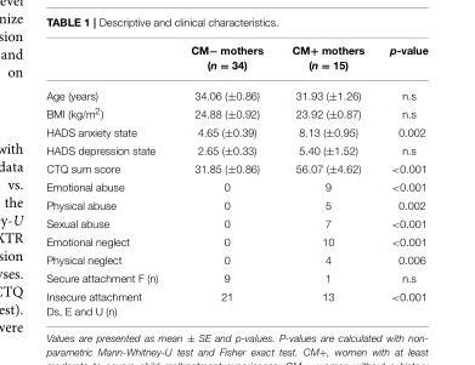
<table><thead><tr><td></td><td>CM− mothers (n = 34)</td><td>CM+ mothers (n = 15)</td><td>p-value</td></tr></thead><tbody><tr><td>Age (years)</td><td>34.06 (±0.86)</td><td>31.93 (±1.26)</td><td>n.s</td></tr><tr><td>BMI (kg/m<sup>2</sup>)</td><td>24.88 (±0.92)</td><td>23.92 (±0.87)</td><td>n.s</td></tr><tr><td>HADS anxiety state</td><td>4.65 (±0.39)</td><td>8.13 (±0.95)</td><td>0.002</td></tr><tr><td>HADS depression state</td><td>2.65 (±0.33)</td><td>5.40 (±1.52)</td><td>n.s</td></tr><tr><td>CTQ sum score</td><td>31.85 (±0.86)</td><td>56.07 (±4.62)</td><td>&lt;0.001</td></tr><tr><td>Emotional abuse</td><td>0</td><td>9</td><td>&lt;0.001</td></tr><tr><td>Physical abuse</td><td>0</td><td>5</td><td>0.002</td></tr><tr><td>Sexual abuse</td><td>0</td><td>7</td><td>&lt;0.001</td></tr><tr><td>Emotional neglect</td><td>0</td><td>10</td><td>&lt;0.001</td></tr><tr><td>Physical neglect</td><td>0</td><td>4</td><td>0.006</td></tr><tr><td>Secure attachment F (n)</td><td>9</td><td>1</td><td>n.s</td></tr><tr><td>Insecure attachment Ds, E and U (n)</td><td>21</td><td>13</td><td>&lt;0.001</td></tr></tbody></table>